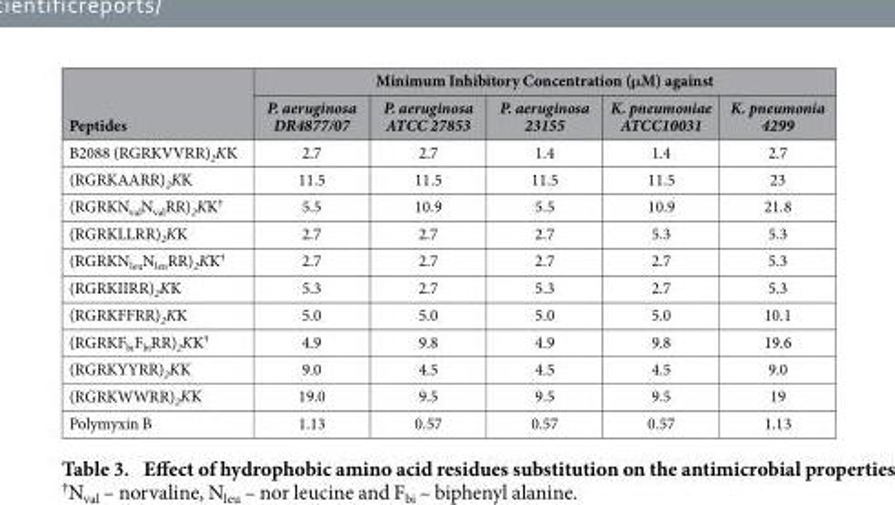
<table><thead><tr><td rowspan="2">Peptides</td><td colspan="5">Minimum Inhibitory Concentration (μ M) against</td></tr><tr><td>P. aeruginosa DR4877/07</td><td>P. aeruginosa ATCC 27853</td><td>P. aeruginosa 23155</td><td>K. pneumoniae ATCC10031</td><td>K. pneumonia 4299</td></tr></thead><tbody><tr><td>B2088 (RGRKVVRR)<sub>2</sub>KK</td><td>2.7</td><td>2.7</td><td>1.4</td><td>1.4</td><td>2.7</td></tr><tr><td>(RGRKAARR)<sub>2</sub>KK</td><td>11.5</td><td>11.5</td><td>11.5</td><td>11.5</td><td>23</td></tr><tr><td>(RGRKN<sub>val</sub>N<sub>val</sub>RR)<sub>2</sub>KK†</td><td>5.5</td><td>10.9</td><td>5.5</td><td>10.9</td><td>21.8</td></tr><tr><td>(RGRKLLRR)<sub>2</sub>KK</td><td>2.7</td><td>2.7</td><td>2.7</td><td>5.3</td><td>5.3</td></tr><tr><td>(RGRKN<sub>leu</sub>N<sub>leu</sub>RR)<sub>2</sub>KK†</td><td>2.7</td><td>2.7</td><td>2.7</td><td>2.7</td><td>5.3</td></tr><tr><td>(RGRKIIRR)<sub>2</sub>KK</td><td>5.3</td><td>2.7</td><td>5.3</td><td>2.7</td><td>5.3</td></tr><tr><td>(RGRKFFRR)<sub>2</sub>KK</td><td>5.0</td><td>5.0</td><td>5.0</td><td>5.0</td><td>10.1</td></tr><tr><td>(RGRKF<sub>bi</sub>F<sub>bi</sub>RR)<sub>2</sub>KK†</td><td>4.9</td><td>9.8</td><td>4.9</td><td>9.8</td><td>19.6</td></tr><tr><td>(RGRKYYRR)<sub>2</sub>KK</td><td>9.0</td><td>4.5</td><td>4.5</td><td>4.5</td><td>9.0</td></tr><tr><td>(RGRKWWRR)<sub>2</sub>KK</td><td>19.0</td><td>9.5</td><td>9.5</td><td>9.5</td><td>19</td></tr><tr><td>Polymyxin B</td><td>1.13</td><td>0.57</td><td>0.57</td><td>0.57</td><td>1.13</td></tr></tbody></table>